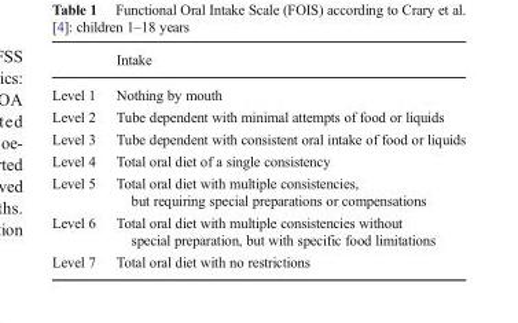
<table><thead><tr><td></td><td>Intake</td></tr></thead><tbody><tr><td>Level 1</td><td>Nothing by mouth</td></tr><tr><td>Level 2</td><td>Tube dependent with minimal attempts of food or liquids</td></tr><tr><td>Level 3</td><td>Tube dependent with consistent oral intake of food or liquids</td></tr><tr><td>Level 4</td><td>Total oral diet of a single consistency</td></tr><tr><td>Level 5</td><td>Total oral diet with multiple consistencies, but requiring special preparations or compensations</td></tr><tr><td>Level 6</td><td>Total oral diet with multiple consistencies without special preparation, but with specific food limitations</td></tr><tr><td>Level 7</td><td>Total oral diet with no restrictions</td></tr></tbody></table>